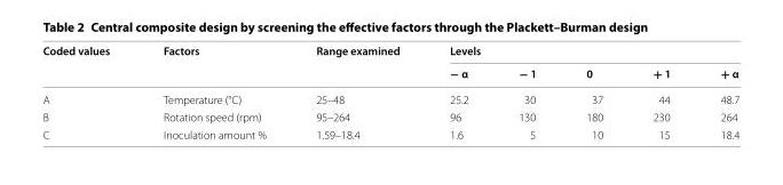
<table><thead><tr><td rowspan="2">Coded values</td><td rowspan="2">Factors</td><td rowspan="2">Range examined</td><td colspan="5">Levels</td></tr><tr><td>− α</td><td>− 1</td><td>0</td><td>+ 1</td><td>+ α</td></tr></thead><tbody><tr><td>A</td><td>Temperature (°C)</td><td>25–48</td><td>25.2</td><td>30</td><td>37</td><td>44</td><td>48.7</td></tr><tr><td>B</td><td>Rotation speed (rpm)</td><td>95–264</td><td>96</td><td>130</td><td>180</td><td>230</td><td>264</td></tr><tr><td>C</td><td>Inoculation amount %</td><td>1.59–18.4</td><td>1.6</td><td>5</td><td>10</td><td>15</td><td>18.4</td></tr></tbody></table>